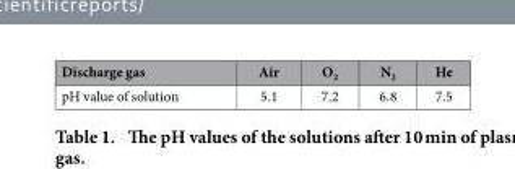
<table><thead><tr><td>Discharge gas</td><td>Air</td><td>O<sub>2</sub></td><td>N<sub>2</sub></td><td>He</td></tr></thead><tbody><tr><td>pH value of solution</td><td>5.1</td><td>7.2</td><td>6.8</td><td>7.5</td></tr></tbody></table>